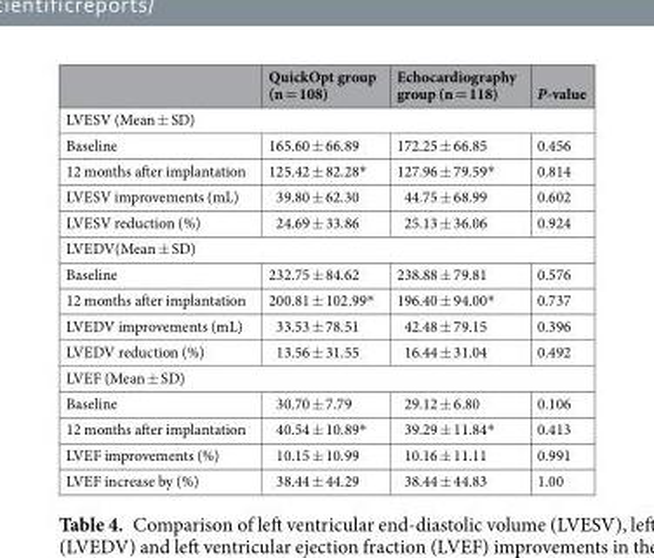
<table><thead><tr><td></td><td>QuickOpt group (n = 108)</td><td>Echocardiography group (n = 118)</td><td>P-value</td></tr></thead><tbody><tr><td colspan="4">LVESV (Mean ± SD)</td></tr><tr><td>Baseline</td><td>165.60 ± 66.89</td><td>172.25 ± 66.85</td><td>0.456</td></tr><tr><td>12 months after implantation</td><td>125.42 ± 82.28*</td><td>127.96 ± 79.59*</td><td>0.814</td></tr><tr><td>LVESV improvements (mL)</td><td>39.80 ± 62.30</td><td>44.75 ± 68.99</td><td>0.602</td></tr><tr><td>LVESV reduction (%)</td><td>24.69 ± 33.86</td><td>25.13 ± 36.06</td><td>0.924</td></tr><tr><td colspan="4">LVEDV(Mean ± SD)</td></tr><tr><td>Baseline</td><td>232.75 ± 84.62</td><td>238.88 ± 79.81</td><td>0.576</td></tr><tr><td>12 months after implantation</td><td>200.81 ± 102.99*</td><td>196.40 ± 94.00*</td><td>0.737</td></tr><tr><td>LVEDV improvements (mL)</td><td>33.53 ± 78.51</td><td>42.48 ± 79.15</td><td>0.396</td></tr><tr><td>LVEDV reduction (%)</td><td>13.56 ± 31.55</td><td>16.44 ± 31.04</td><td>0.492</td></tr><tr><td colspan="4">LVEF (Mean ± SD)</td></tr><tr><td>Baseline</td><td>30.70 ± 7.79</td><td>29.12 ± 6.80</td><td>0.106</td></tr><tr><td>12 months after implantation</td><td>40.54 ± 10.89*</td><td>39.29 ± 11.84*</td><td>0.413</td></tr><tr><td>LVEF improvements (%)</td><td>10.15 ± 10.99</td><td>10.16 ± 11.11</td><td>0.991</td></tr><tr><td>LVEF increase by (%)</td><td>38.44 ± 44.29</td><td>38.44 ± 44.83</td><td>1.00</td></tr></tbody></table>